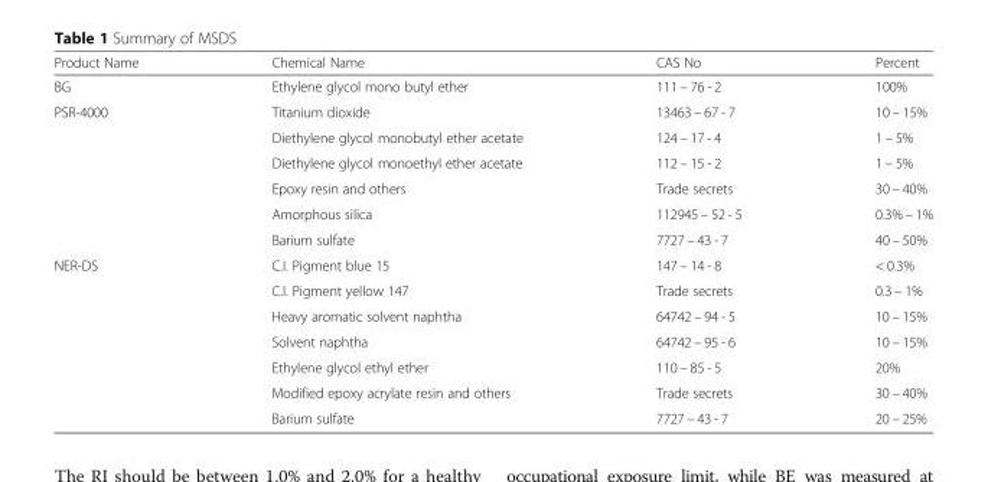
<table><thead><tr><td>Product Name</td><td>Chemical Name</td><td>CAS No</td><td>Percent</td></tr></thead><tbody><tr><td>BG</td><td>Ethylene glycol mono butyl ether</td><td>111 – 76 - 2</td><td>100%</td></tr><tr><td rowspan="6">PSR-4000</td><td>Titanium dioxide</td><td>13463 – 67 - 7</td><td>10 – 15%</td></tr><tr><td>Diethylene glycol monobutyl ether acetate</td><td>124 – 17 - 4</td><td>1 – 5%</td></tr><tr><td>Diethylene glycol monoethyl ether acetate</td><td>112 – 15 - 2</td><td>1 – 5%</td></tr><tr><td>Epoxy resin and others</td><td>Trade secrets</td><td>30 – 40%</td></tr><tr><td>Amorphous silica</td><td>112945 – 52 - 5</td><td>0.3% – 1%</td></tr><tr><td>Barium sulfate</td><td>7727 – 43 - 7</td><td>40 – 50%</td></tr><tr><td rowspan="7">NER-DS</td><td>C.I. Pigment blue 15</td><td>147 – 14 - 8</td><td>&lt; 0.3%</td></tr><tr><td>C.I. Pigment yellow 147</td><td>Trade secrets</td><td>0.3 – 1%</td></tr><tr><td>Heavy aromatic solvent naphtha</td><td>64742 – 94 - 5</td><td>10 – 15%</td></tr><tr><td>Solvent naphtha</td><td>64742 – 95 - 6</td><td>10 – 15%</td></tr><tr><td>Ethylene glycol ethyl ether</td><td>110 – 85 - 5</td><td>20%</td></tr><tr><td>Modified epoxy acrylate resin and others</td><td>Trade secrets</td><td>30 – 40%</td></tr><tr><td>Barium sulfate</td><td>7727 – 43 - 7</td><td>20 – 25%</td></tr></tbody></table>